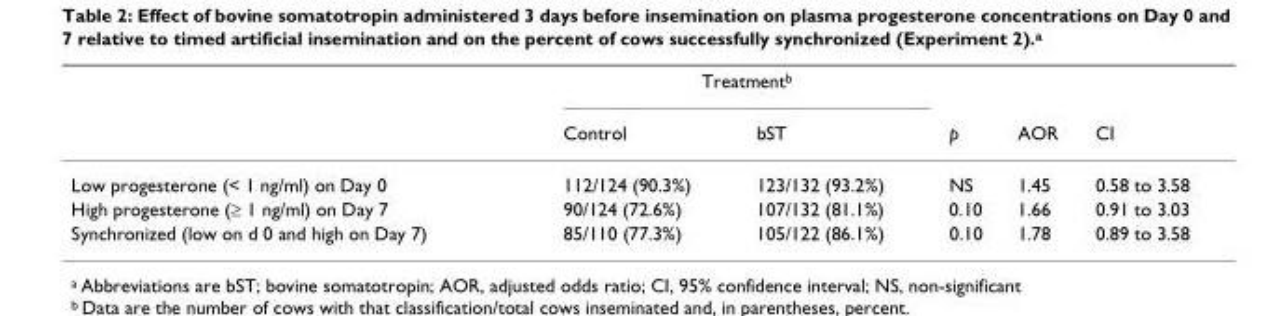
<table><thead><tr><td rowspan="2"></td><td colspan="2">Treatment<sup>b</sup></td><td rowspan="2">p</td><td rowspan="2">AOR</td><td rowspan="2">CI</td></tr><tr><td>Control</td><td>bST</td></tr></thead><tbody><tr><td>Low progesterone (&lt; 1 ng/ml) on Day 0</td><td>112/124 (90.3%)</td><td>123/132 (93.2%)</td><td>NS</td><td>1.45</td><td>0.58 to 3.58</td></tr><tr><td>High progesterone (≥ 1 ng/ml) on Day 7</td><td>90/124 (72.6%)</td><td>107/132 (81.1%)</td><td>0.10</td><td>1.66</td><td>0.91 to 3.03</td></tr><tr><td>Synchronized (low on d 0 and high on Day 7)</td><td>85/110 (77.3%)</td><td>105/122 (86.1%)</td><td>0.10</td><td>1.78</td><td>0.89 to 3.58</td></tr></tbody></table>